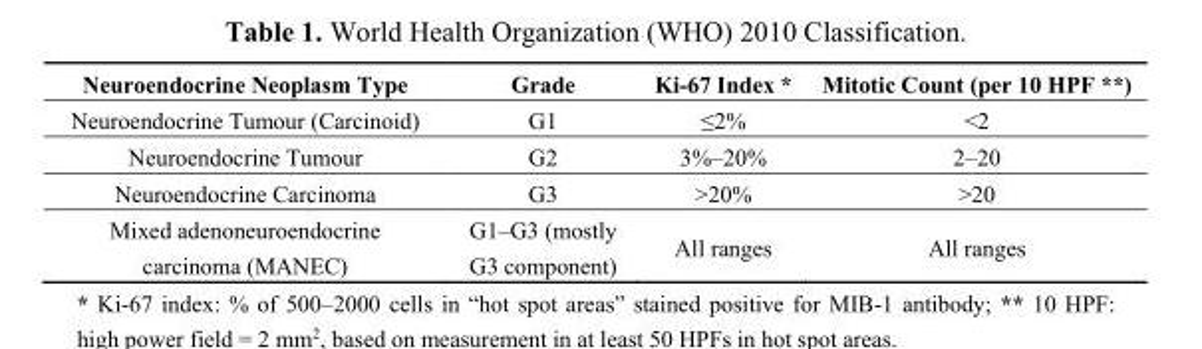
<table><thead><tr><td>Neuroendocrine Neoplasm Type</td><td>Grade</td><td>Ki-67 Index *</td><td>Mitotic Count (per 10 HPF **)</td></tr></thead><tbody><tr><td>Neuroendocrine Tumour (Carcinoid)</td><td>G1</td><td>≤2%</td><td>&lt;2</td></tr><tr><td>Neuroendocrine Tumour</td><td>G2</td><td>3%–20%</td><td>2–20</td></tr><tr><td>Neuroendocrine Carcinoma</td><td>G3</td><td>&gt;20%</td><td>&gt;20</td></tr><tr><td>Mixed adenoneuroendocrine carcinoma (MANEC)</td><td>G1–G3 (mostly G3 component)</td><td>All ranges</td><td>All ranges</td></tr></tbody></table>